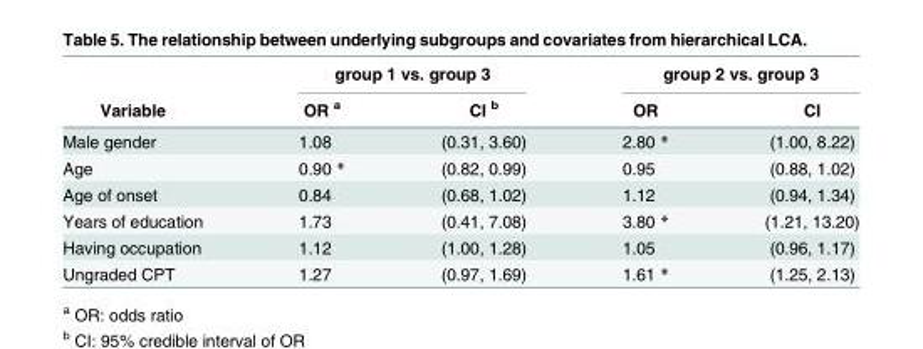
<table><thead><tr><td rowspan="2">Variable</td><td colspan="2">group 1 vs. group 3</td><td colspan="2">group 2 vs. group 3</td></tr><tr><td>OR <sup>a</sup></td><td>CI <sup>b</sup></td><td>OR</td><td>CI</td></tr></thead><tbody><tr><td>Male gender</td><td>1.08</td><td>(0.31, 3.60)</td><td>2.80 *</td><td>(1.00, 8.22)</td></tr><tr><td>Age</td><td>0.90 *</td><td>(0.82, 0.99)</td><td>0.95</td><td>(0.88, 1.02)</td></tr><tr><td>Age of onset</td><td>0.84</td><td>(0.68, 1.02)</td><td>1.12</td><td>(0.94, 1.34)</td></tr><tr><td>Years of education</td><td>1.73</td><td>(0.41, 7.08)</td><td>3.80 *</td><td>(1.21, 13.20)</td></tr><tr><td>Having occupation</td><td>1.12</td><td>(1.00, 1.28)</td><td>1.05</td><td>(0.96, 1.17)</td></tr><tr><td>Ungraded CPT</td><td>1.27</td><td>(0.97, 1.69)</td><td>1.61 *</td><td>(1.25, 2.13)</td></tr></tbody></table>